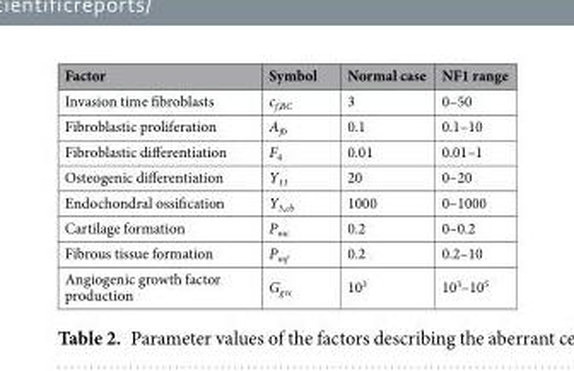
<table><thead><tr><td>Factor</td><td>Symbol</td><td>Normal case</td><td>NF1 range</td></tr></thead><tbody><tr><td>Invasion time fibroblasts</td><td>c<sub>f,BC</sub></td><td>3</td><td>0–50</td></tr><tr><td>Fibroblastic proliferation</td><td>A<sub>f0</sub></td><td>0.1</td><td>0.1–10</td></tr><tr><td>Fibroblastic differentiation</td><td>F<sub>4</sub></td><td>0.01</td><td>0.01–1</td></tr><tr><td>Osteogenic differentiation</td><td>Y<sub>11</sub></td><td>20</td><td>0–20</td></tr><tr><td>Endochondral ossification</td><td>Y<sub>3,cb</sub></td><td>1000</td><td>0–1000</td></tr><tr><td>Cartilage formation</td><td>P<sub>mc</sub></td><td>0.2</td><td>0–0.2</td></tr><tr><td>Fibrous tissue formation</td><td>P<sub>mf</sub></td><td>0.2</td><td>0.2–10</td></tr><tr><td>Angiogenic growth factor production</td><td>G<sub>gvc</sub></td><td>10<sup>3</sup></td><td>10<sup>3</sup>–10<sup>5</sup></td></tr></tbody></table>